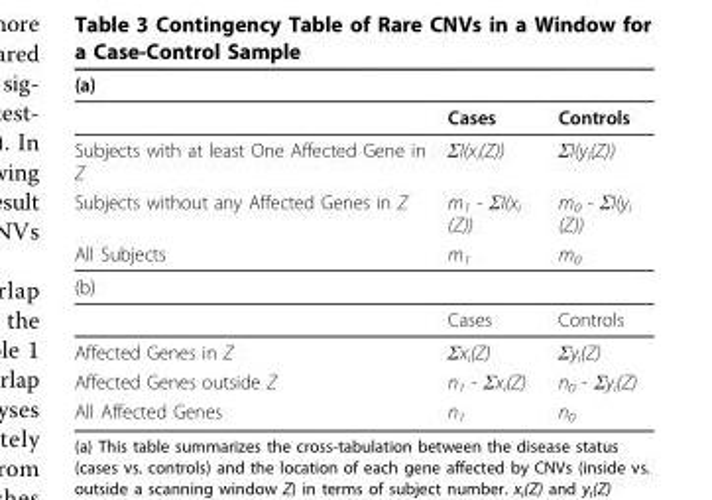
<table><thead><tr><td>(a)</td><td></td><td></td></tr></thead><tbody><tr><td></td><td>Cases</td><td>Controls</td></tr><tr><td>Subjects with at least One Affected Gene in Z</td><td>ΣI(x<sub>i</sub>(Z))</td><td>ΣI(y<sub>i</sub>(Z))</td></tr><tr><td>Subjects without any Affected Genes in Z</td><td>m<sub>1</sub> - ΣI(x<sub>i</sub> (Z))</td><td>m<sub>0</sub> - ΣI(y<sub>i</sub> (Z))</td></tr><tr><td>All Subjects</td><td>m<sub>1</sub></td><td>m<sub>0</sub></td></tr><tr><td colspan="3">(b)</td></tr><tr><td></td><td>Cases</td><td>Controls</td></tr><tr><td>Affected Genes in Z</td><td>Σx<sub>i</sub>(Z)</td><td>Σy<sub>i</sub>(Z)</td></tr><tr><td>Affected Genes outside Z</td><td>n<sub>1</sub> - Σx<sub>i</sub>(Z)</td><td>n<sub>0</sub> - Σy<sub>i</sub>(Z)</td></tr><tr><td>All Affected Genes</td><td>n<sub>1</sub></td><td>n<sub>0</sub></td></tr></tbody></table>